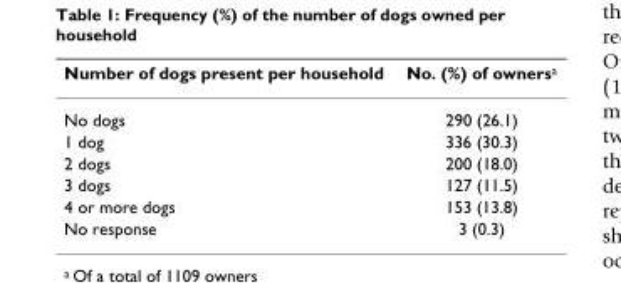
<table><thead><tr><td>Number of dogs present per household</td><td>No. (%) of owners<sup>a</sup></td></tr></thead><tbody><tr><td>No dogs</td><td>290 (26.1)</td></tr><tr><td>1 dog</td><td>336 (30.3)</td></tr><tr><td>2 dogs</td><td>200 (18.0)</td></tr><tr><td>3 dogs</td><td>127 (11.5)</td></tr><tr><td>4 or more dogs</td><td>153 (13.8)</td></tr><tr><td>No response</td><td>3 (0.3)</td></tr></tbody></table>